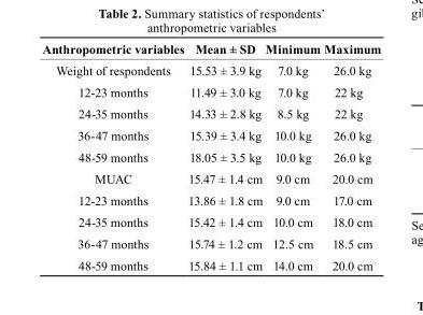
<table><thead><tr><td>Anthropometric variables</td><td>Mean ± sD</td><td>Minimum</td><td>Maximum</td></tr></thead><tbody><tr><td>Weight of respondents</td><td>15.53 ± 3.9 kg</td><td>7.0 kg</td><td>26.0 kg</td></tr><tr><td>12-23 months</td><td>11.49 ± 3.0 kg</td><td>7.0 kg</td><td>22 kg</td></tr><tr><td>24-35 months</td><td>14.33 ± 2.8 kg</td><td>8.5 kg</td><td>22 kg</td></tr><tr><td>36-47 months</td><td>15.39 ± 3.4 kg</td><td>10.0 kg</td><td>26.0 kg</td></tr><tr><td>48-59 months</td><td>18.05 ± 3.5 kg</td><td>10.0 kg</td><td>26.0 kg</td></tr><tr><td>MUAC</td><td>15.47 ± 1.4 cm</td><td>9.0 cm</td><td>20.0 cm</td></tr><tr><td>12-23 months</td><td>13.86 ± 1.8 cm</td><td>9.0 cm</td><td>17.0 cm</td></tr><tr><td>24-35 months</td><td>15.42 ± 1.4 cm</td><td>10.0 cm</td><td>18.0 cm</td></tr><tr><td>36-47 months</td><td>15.74 ± 1.2 cm</td><td>12.5 cm</td><td>18.5 cm</td></tr><tr><td>48-59 months</td><td>15.84 ± 1.1 cm</td><td>14.0 cm</td><td>20.0 cm</td></tr></tbody></table>